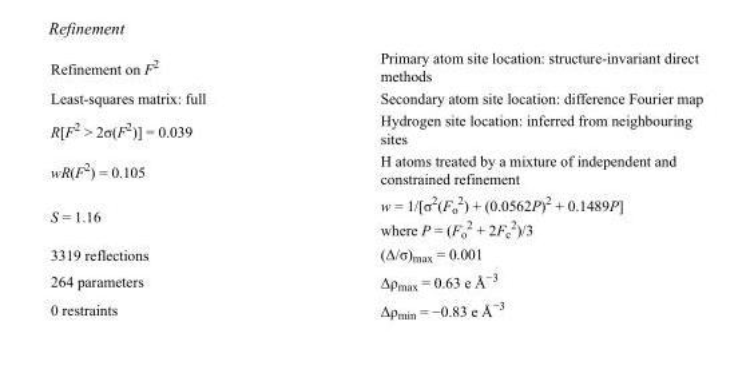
<table><tbody><tr><td>Refinement on F<sup>2</sup></td><td>Primary atom site location: structure-invariant direct methods</td></tr><tr><td>Least-squares matrix: full</td><td>Secondary atom site location: difference Fourier map</td></tr><tr><td>R[F<sup>2</sup> &gt; 2σ(F<sup>2</sup>)] = 0.039</td><td>Hydrogen site location: inferred from neighbouring sites</td></tr><tr><td>wR(F<sup>2</sup>) = 0.105</td><td>H atoms treated by a mixture of independent and constrained refinement</td></tr><tr><td>S = 1.16</td><td>w = 1/[σ<sup>2</sup>(F<sub>o</sub> <sup>2</sup>) + (0.0562P)<sup>2</sup> + 0.1489P] where P = (F<sub>o</sub> <sup>2</sup> + 2F<sub>c</sub> <sup>2</sup>)/3</td></tr><tr><td>3319 reflections</td><td>(Δ/σ)<sub>max</sub> = 0.001</td></tr><tr><td>264 parameters</td><td>Δρ<sub>max</sub> = 0.63 e Å<sup>−3</sup></td></tr><tr><td>0 restraints</td><td>Δρ<sub>min</sub> = −0.83 e Å<sup>−3</sup></td></tr></tbody></table>